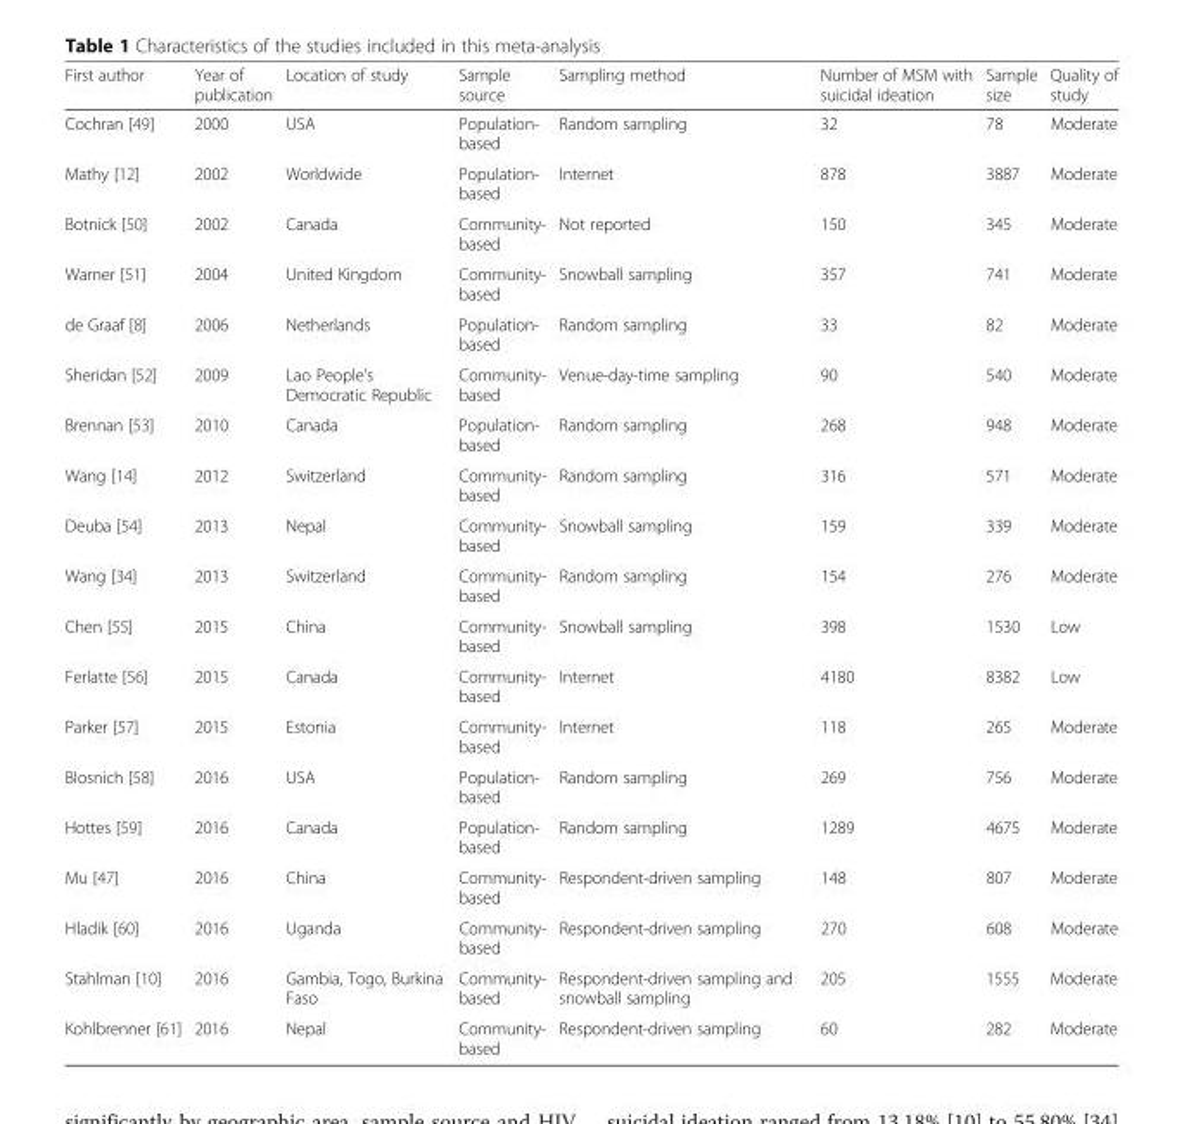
<table><thead><tr><td>First author</td><td>Year of publication</td><td>Location of study</td><td>Sample source</td><td>Sampling method</td><td>Number of MSM with suicidal ideation</td><td>Sample size</td><td>Quality of study</td></tr></thead><tbody><tr><td>Cochran [49]</td><td>2000</td><td>USA</td><td>Population- based</td><td>Random sampling</td><td>32</td><td>78</td><td>Moderate</td></tr><tr><td>Mathy [12]</td><td>2002</td><td>Worldwide</td><td>Population- based</td><td>Internet</td><td>878</td><td>3887</td><td>Moderate</td></tr><tr><td>Botnick [50]</td><td>2002</td><td>Canada</td><td>Community- based</td><td>Not reported</td><td>150</td><td>345</td><td>Moderate</td></tr><tr><td>Warner [51]</td><td>2004</td><td>United Kingdom</td><td>Community- based</td><td>Snowball sampling</td><td>357</td><td>741</td><td>Moderate</td></tr><tr><td>de Graaf [8]</td><td>2006</td><td>Netherlands</td><td>Population- based</td><td>Random sampling</td><td>33</td><td>82</td><td>Moderate</td></tr><tr><td>Sheridan [52]</td><td>2009</td><td>Lao People’s Democratic Republic</td><td>Community- based</td><td>Venue-day-time sampling</td><td>90</td><td>540</td><td>Moderate</td></tr><tr><td>Brennan [53]</td><td>2010</td><td>Canada</td><td>Population- based</td><td>Random sampling</td><td>268</td><td>948</td><td>Moderate</td></tr><tr><td>Wang [14]</td><td>2012</td><td>Switzerland</td><td>Community- based</td><td>Random sampling</td><td>316</td><td>571</td><td>Moderate</td></tr><tr><td>Deuba [54]</td><td>2013</td><td>Nepal</td><td>Community- based</td><td>Snowball sampling</td><td>159</td><td>339</td><td>Moderate</td></tr><tr><td>Wang [34]</td><td>2013</td><td>Switzerland</td><td>Community- based</td><td>Random sampling</td><td>154</td><td>276</td><td>Moderate</td></tr><tr><td>Chen [55]</td><td>2015</td><td>China</td><td>Community- based</td><td>Snowball sampling</td><td>398</td><td>1530</td><td>Low</td></tr><tr><td>Ferlatte [56]</td><td>2015</td><td>Canada</td><td>Community- based</td><td>Internet</td><td>4180</td><td>8382</td><td>Low</td></tr><tr><td>Parker [57]</td><td>2015</td><td>Estonia</td><td>Community- based</td><td>Internet</td><td>118</td><td>265</td><td>Moderate</td></tr><tr><td>Blosnich [58]</td><td>2016</td><td>USA</td><td>Population- based</td><td>Random sampling</td><td>269</td><td>756</td><td>Moderate</td></tr><tr><td>Hottes [59]</td><td>2016</td><td>Canada</td><td>Population- based</td><td>Random sampling</td><td>1289</td><td>4675</td><td>Moderate</td></tr><tr><td>Mu [47]</td><td>2016</td><td>China</td><td>Community- based</td><td>Respondent-driven sampling</td><td>148</td><td>807</td><td>Moderate</td></tr><tr><td>Hladik [60]</td><td>2016</td><td>Uganda</td><td>Community- based</td><td>Respondent-driven sampling</td><td>270</td><td>608</td><td>Moderate</td></tr><tr><td>Stahlman [10]</td><td>2016</td><td>Gambia, Togo, Burkina Faso</td><td>Community- based</td><td>Respondent-driven sampling and snowball sampling</td><td>205</td><td>1555</td><td>Moderate</td></tr><tr><td>Kohlbrenner [61]</td><td>2016</td><td>Nepal</td><td>Community- based</td><td>Respondent-driven sampling</td><td>60</td><td>282</td><td>Moderate</td></tr></tbody></table>